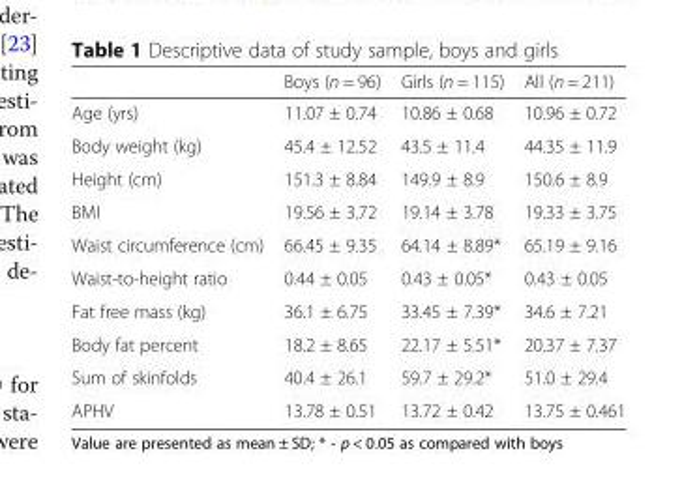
<table><thead><tr><td></td><td>Boys (n = 96)</td><td>Girls (n = 115)</td><td>All (n = 211)</td></tr></thead><tbody><tr><td>Age (yrs)</td><td>11.07 ± 0.74</td><td>10.86 ± 0.68</td><td>10.96 ± 0.72</td></tr><tr><td>Body weight (kg)</td><td>45.4 ± 12.52</td><td>43.5 ± 11.4</td><td>44.35 ± 11.9</td></tr><tr><td>Height (cm)</td><td>151.3 ± 8.84</td><td>149.9 ± 8.9</td><td>150.6 ± 8.9</td></tr><tr><td>BMI</td><td>19.56 ± 3.72</td><td>19.14 ± 3.78</td><td>19.33 ± 3.75</td></tr><tr><td>Waist circumference (cm)</td><td>66.45 ± 9.35</td><td>64.14 ± 8.89*</td><td>65.19 ± 9.16</td></tr><tr><td>Waist-to-height ratio</td><td>0.44 ± 0.05</td><td>0.43 ± 0.05*</td><td>0.43 ± 0.05</td></tr><tr><td>Fat free mass (kg)</td><td>36.1 ± 6.75</td><td>33.45 ± 7.39*</td><td>34.6 ± 7.21</td></tr><tr><td>Body fat percent</td><td>18.2 ± 8.65</td><td>22.17 ± 5.51*</td><td>20.37 ± 7.37</td></tr><tr><td>Sum of skinfolds</td><td>40.4 ± 26.1</td><td>59.7 ± 29.2*</td><td>51.0 ± 29.4</td></tr><tr><td>APHV</td><td>13.78 ± 0.51</td><td>13.72 ± 0.42</td><td>13.75 ± 0.461</td></tr></tbody></table>